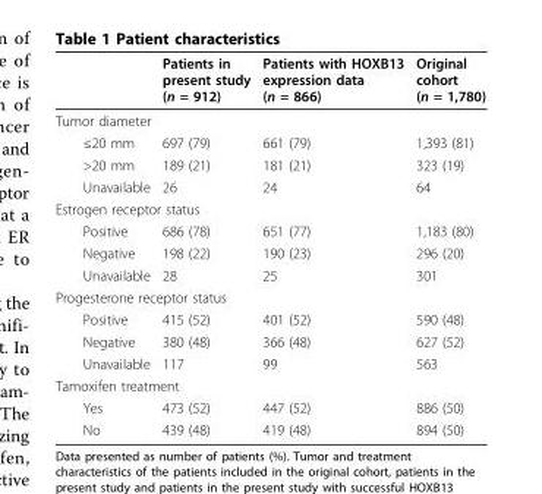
<table><thead><tr><td></td><td>Patients in present study (n = 912)</td><td>Patients with HOXB13 expression data (n = 866)</td><td>Original cohort (n = 1,780)</td></tr></thead><tbody><tr><td colspan="4">Tumor diameter</td></tr><tr><td>≤20 mm</td><td>697 (79)</td><td>661 (79)</td><td>1,393 (81)</td></tr><tr><td>&gt;20 mm</td><td>189 (21)</td><td>181 (21)</td><td>323 (19)</td></tr><tr><td>Unavailable</td><td>26</td><td>24</td><td>64</td></tr><tr><td colspan="4">Estrogen receptor status</td></tr><tr><td>Positive</td><td>686 (78)</td><td>651 (77)</td><td>1,183 (80)</td></tr><tr><td>Negative</td><td>198 (22)</td><td>190 (23)</td><td>296 (20)</td></tr><tr><td>Unavailable</td><td>28</td><td>25</td><td>301</td></tr><tr><td colspan="4">Progesterone receptor status</td></tr><tr><td>Positive</td><td>415 (52)</td><td>401 (52)</td><td>590 (48)</td></tr><tr><td>Negative</td><td>380 (48)</td><td>366 (48)</td><td>627 (52)</td></tr><tr><td>Unavailable</td><td>117</td><td>99</td><td>563</td></tr><tr><td colspan="4">Tamoxifen treatment</td></tr><tr><td>Yes</td><td>473 (52)</td><td>447 (52)</td><td>886 (50)</td></tr><tr><td>No</td><td>439 (48)</td><td>419 (48)</td><td>894 (50)</td></tr></tbody></table>